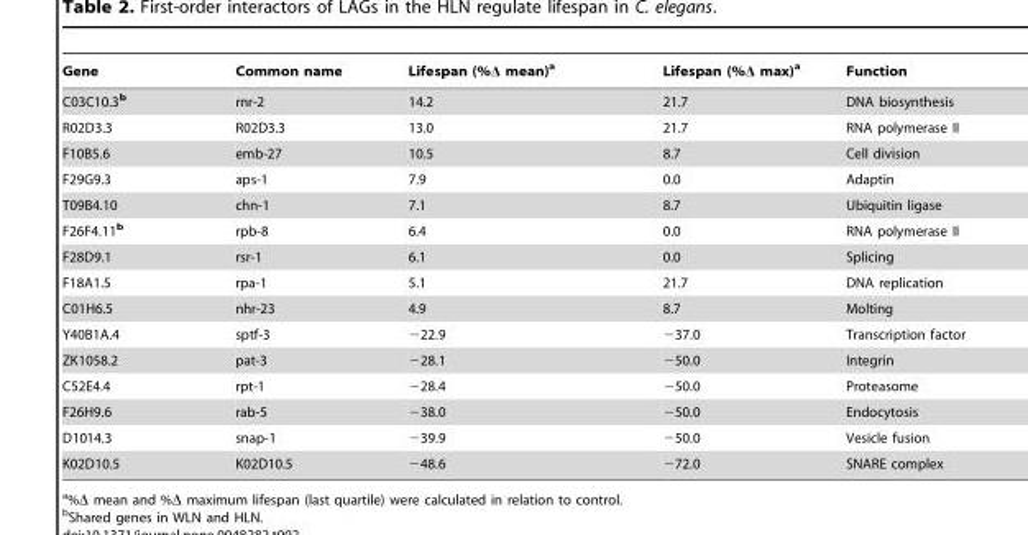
<table><thead><tr><td>Gene</td><td>Common name</td><td>Lifespan (%Δ mean)<sup>a</sup></td><td>Lifespan (%Δ max)<sup>a</sup></td><td>Function</td></tr></thead><tbody><tr><td>C03C10.3<sup>b</sup></td><td>rnr-2</td><td>14.2</td><td>21.7</td><td>DNA biosynthesis</td></tr><tr><td>R02D3.3</td><td>R02D3.3</td><td>13.0</td><td>21.7</td><td>RNA polymerase II</td></tr><tr><td>F10B5.6</td><td>emb-27</td><td>10.5</td><td>8.7</td><td>Cell division</td></tr><tr><td>F29G9.3</td><td>aps-1</td><td>7.9</td><td>0.0</td><td>Adaptin</td></tr><tr><td>T09B4.10</td><td>chn-1</td><td>7.1</td><td>8.7</td><td>Ubiquitin ligase</td></tr><tr><td>F26F4.11<sup>b</sup></td><td>rpb-8</td><td>6.4</td><td>0.0</td><td>RNA polymerase II</td></tr><tr><td>F28D9.1</td><td>rsr-1</td><td>6.1</td><td>0.0</td><td>Splicing</td></tr><tr><td>F18A1.5</td><td>rpa-1</td><td>5.1</td><td>21.7</td><td>DNA replication</td></tr><tr><td>C01H6.5</td><td>nhr-23</td><td>4.9</td><td>8.7</td><td>Molting</td></tr><tr><td>Y40B1A.4</td><td>sptf-3</td><td>−22.9</td><td>−37.0</td><td>Transcription factor</td></tr><tr><td>ZK1058.2</td><td>pat-3</td><td>−28.1</td><td>−50.0</td><td>Integrin</td></tr><tr><td>C52E4.4</td><td>rpt-1</td><td>−28.4</td><td>−50.0</td><td>Proteasome</td></tr><tr><td>F26H9.6</td><td>rab-5</td><td>−38.0</td><td>−50.0</td><td>Endocytosis</td></tr><tr><td>D1014.3</td><td>snap-1</td><td>−39.9</td><td>−50.0</td><td>Vesicle fusion</td></tr><tr><td>K02D10.5</td><td>K02D10.5</td><td>−48.6</td><td>−72.0</td><td>SNARE complex</td></tr></tbody></table>